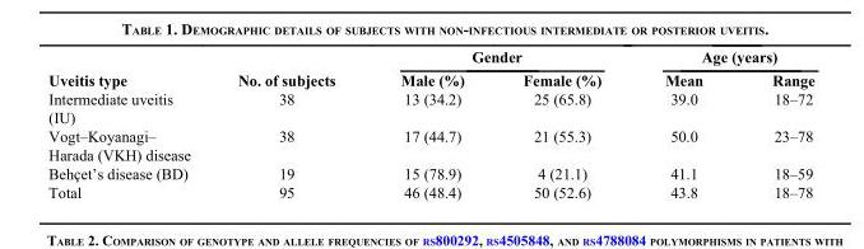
<table><thead><tr><td rowspan="2">Uveitis type</td><td rowspan="2">No. of subjects</td><td colspan="2">Gender</td><td colspan="2">Age (years)</td></tr><tr><td>Male (%)</td><td>Female (%)</td><td>Mean</td><td>Range</td></tr></thead><tbody><tr><td>Intermediate uveitis (IU)</td><td>38</td><td>13 (34.2)</td><td>25 (65.8)</td><td>39.0</td><td>18–72</td></tr><tr><td>Vogt–Koyanagi– Harada (VKH) disease</td><td>38</td><td>17 (44.7)</td><td>21 (55.3)</td><td>50.0</td><td>23–78</td></tr><tr><td>Behçet’s disease (BD)</td><td>19</td><td>15 (78.9)</td><td>4 (21.1)</td><td>41.1</td><td>18–59</td></tr><tr><td>Total</td><td>95</td><td>46 (48.4)</td><td>50 (52.6)</td><td>43.8</td><td>18–78</td></tr></tbody></table>